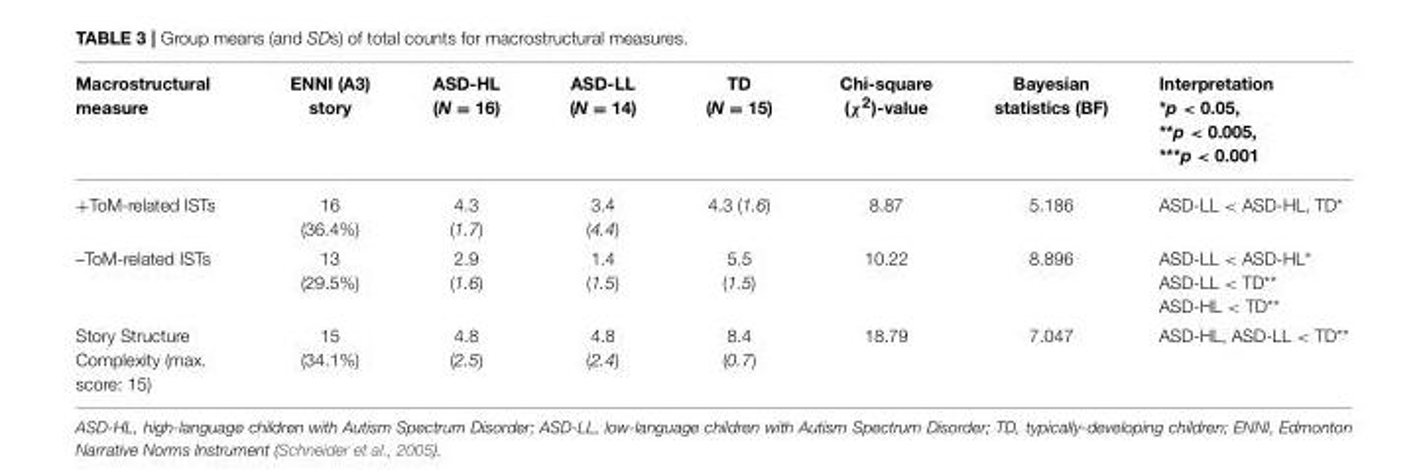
<table><thead><tr><td>Macrostructural measure</td><td>ENNI (A3) story</td><td>ASD-HL (N = 16)</td><td>ASD-LL (N = 14)</td><td>TD (N = 15)</td><td>Chi-square (χ<sup>2</sup>)-value</td><td>Bayesian statistics (BF)</td><td>Interpretation *p &lt; 0.05, **p &lt; 0.005, ***p &lt; 0.001</td></tr></thead><tbody><tr><td>+ToM-related ISTs</td><td>16 (36.4%)</td><td>4.3 (1.7)</td><td>3.4 (4.4)</td><td>4.3 (1.6)</td><td>8.87</td><td>5.186</td><td>ASD-LL &lt; ASD-HL, TD*</td></tr><tr><td>–ToM-related ISTs</td><td>13 (29.5%)</td><td>2.9 (1.6)</td><td>1.4 (1.5)</td><td>5.5 (1.5)</td><td>10.22</td><td>8.896</td><td>ASD-LL &lt; ASD-HL* ASD-LL &lt; TD** ASD-HL &lt; TD**</td></tr><tr><td>Story Structure Complexity (max. score: 15)</td><td>15 (34.1%)</td><td>4.8 (2.5)</td><td>4.8 (2.4)</td><td>8.4 (0.7)</td><td>18.79</td><td>7.047</td><td>ASD-HL, ASD-LL &lt; TD**</td></tr></tbody></table>